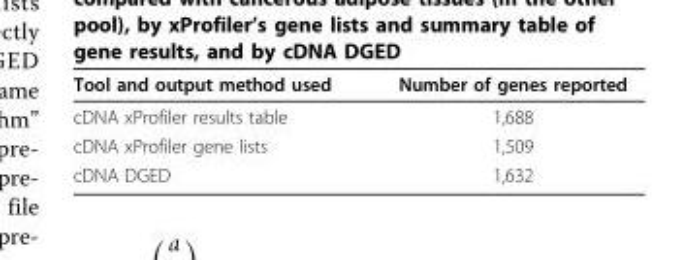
<table><thead><tr><td>Tool and output method used</td><td>Number of genes reported</td></tr></thead><tbody><tr><td>cDNA xProfiler results table</td><td>1,688</td></tr><tr><td>cDNA xProfiler gene lists</td><td>1,509</td></tr><tr><td>cDNA DGED</td><td>1,632</td></tr></tbody></table>